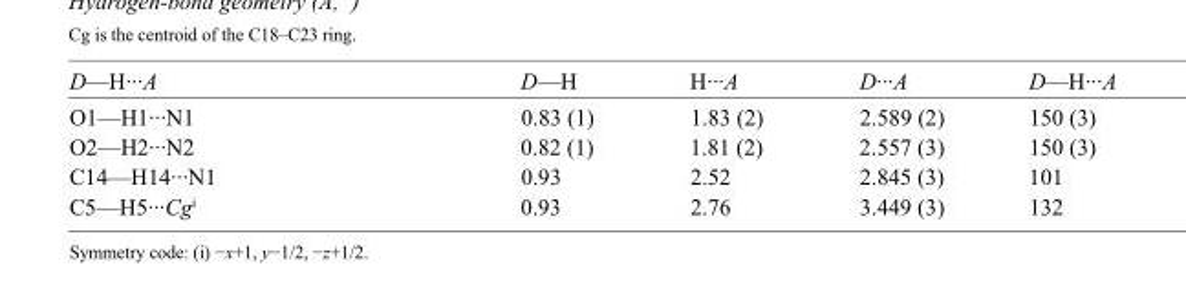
<table><tbody><tr><td>D—H···A</td><td>D—H</td><td>H···A</td><td>D···A</td><td>D—H···A</td></tr><tr><td>O1—H1···N1</td><td>0.83 (1)</td><td>1.83 (2)</td><td>2.589 (2)</td><td>150 (3)</td></tr><tr><td>O2—H2···N2</td><td>0.82 (1)</td><td>1.81 (2)</td><td>2.557 (3)</td><td>150 (3)</td></tr><tr><td>C14—H14···N1</td><td>0.93</td><td>2.52</td><td>2.845 (3)</td><td>101</td></tr><tr><td>C5—H5···Cg<sup>i</sup></td><td>0.93</td><td>2.76</td><td>3.449 (3)</td><td>132</td></tr></tbody></table>